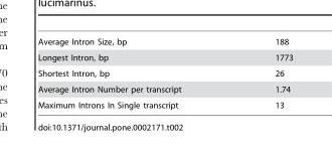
<table><tbody><tr><td>Average Intron Size, bp</td><td>188</td></tr><tr><td>Longest Intron, bp</td><td>1773</td></tr><tr><td>Shortest Intron, bp</td><td>26</td></tr><tr><td>Average Intron Number per transcript</td><td>1.74</td></tr><tr><td>Maximum Introns In Single transcript</td><td>13</td></tr></tbody></table>